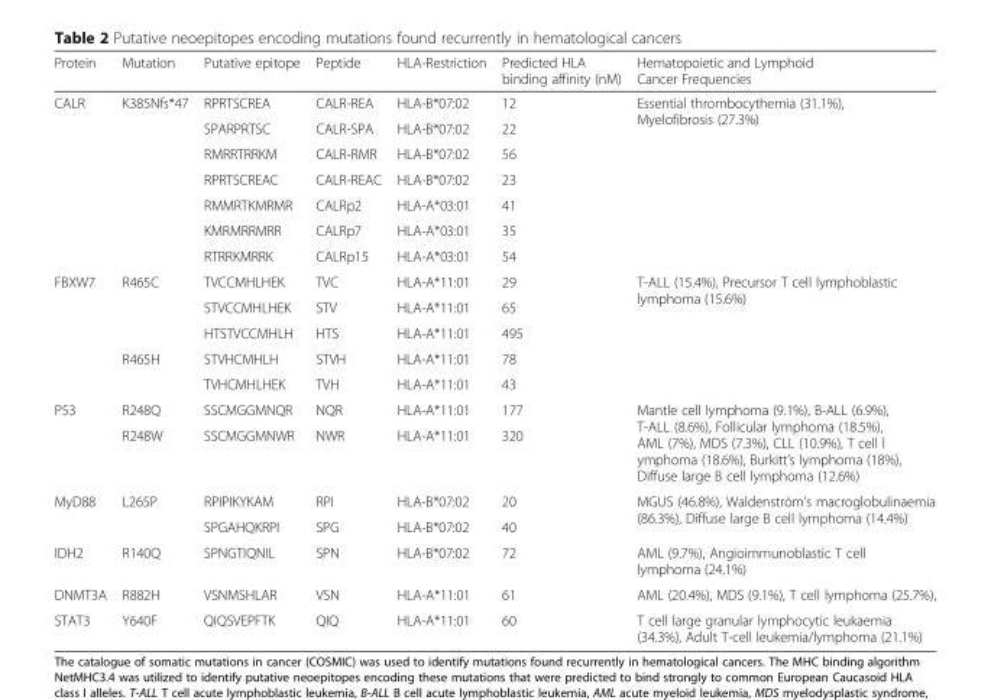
<table><thead><tr><td>Protein</td><td>Mutation</td><td>Putative epitope</td><td>Peptide</td><td>HLA-Restriction</td><td>Predicted HLA binding affinity (nM)</td><td>Hematopoietic and Lymphoid Cancer Frequencies</td></tr></thead><tbody><tr><td rowspan="7">CALR</td><td rowspan="7">K385Nfs*47</td><td>RPRTSCREA</td><td>CALR-REA</td><td>HLA-B*07:02</td><td>12</td><td rowspan="7">Essential thrombocythemia (31.1%), Myelofibrosis (27.3%)</td></tr><tr><td>SPARPRTSC</td><td>CALR-SPA</td><td>HLA-B*07:02</td><td>22</td></tr><tr><td>RMRRTRRKM</td><td>CALR-RMR</td><td>HLA-B*07:02</td><td>56</td></tr><tr><td>RPRTSCREAC</td><td>CALR-REAC</td><td>HLA-B*07:02</td><td>23</td></tr><tr><td>RMMRTKMRMR</td><td>CALRp2</td><td>HLA-A*03:01</td><td>41</td></tr><tr><td>KMRMRRMRR</td><td>CALRp7</td><td>HLA-A*03:01</td><td>35</td></tr><tr><td>RTRRKMRRK</td><td>CALRp15</td><td>HLA-A*03:01</td><td>54</td></tr><tr><td rowspan="5">FBXW7</td><td rowspan="3">R465C</td><td>TVCCMHLHEK</td><td>TVC</td><td>HLA-A*11:01</td><td>29</td><td rowspan="5">T-ALL (15.4%), Precursor T cell lymphoblastic lymphoma (15.6%)</td></tr><tr><td>STVCCMHLHEK</td><td>STV</td><td>HLA-A*11:01</td><td>65</td></tr><tr><td>HTSTVCCMHLH</td><td>HTS</td><td>HLA-A*11:01</td><td>495</td></tr><tr><td rowspan="2">R465H</td><td>STVHCMHLH</td><td>STVH</td><td>HLA-A*11:01</td><td>78</td></tr><tr><td>TVHCMHLHEK</td><td>TVH</td><td>HLA-A*11:01</td><td>43</td></tr><tr><td rowspan="2">P53</td><td>R248Q</td><td>SSCMGGMNQR</td><td>NQR</td><td>HLA-A*11:01</td><td>177</td><td rowspan="2">Mantle cell lymphoma (9.1%), B-ALL (6.9%), T-ALL (8.6%), Follicular lymphoma (18.5%), AML (7%), MDS (7.3%), CLL (10.9%), T cell l ymphoma (18.6%), Burkitt’s lymphoma (18%), Diffuse large B cell lymphoma (12.6%)</td></tr><tr><td>R248W</td><td>SSCMGGMNWR</td><td>NWR</td><td>HLA-A*11:01</td><td>320</td></tr><tr><td rowspan="2">MyD88</td><td rowspan="2">L265P</td><td>RPIPIKYKAM</td><td>RPI</td><td>HLA-B*07:02</td><td>20</td><td rowspan="2">MGUS (46.8%), Waldenström’s macroglobulinaemia (86.3%), Diffuse large B cell lymphoma (14.4%)</td></tr><tr><td>SPGAHQKRPI</td><td>SPG</td><td>HLA-B*07:02</td><td>40</td></tr><tr><td>IDH2</td><td>R140Q</td><td>SPNGTIQNIL</td><td>SPN</td><td>HLA-B*07:02</td><td>72</td><td>AML (9.7%), Angioimmunoblastic T cell lymphoma (24.1%)</td></tr><tr><td>DNMT3A</td><td>R882H</td><td>VSNMSHLAR</td><td>VSN</td><td>HLA-A*11:01</td><td>61</td><td>AML (20.4%), MDS (9.1%), T cell lymphoma (25.7%),</td></tr><tr><td>STAT3</td><td>Y640F</td><td>QIQSVEPFTK</td><td>QIQ</td><td>HLA-A*11:01</td><td>60</td><td>T cell large granular lymphocytic leukaemia (34.3%), Adult T-cell leukemia/lymphoma (21.1%)</td></tr></tbody></table>